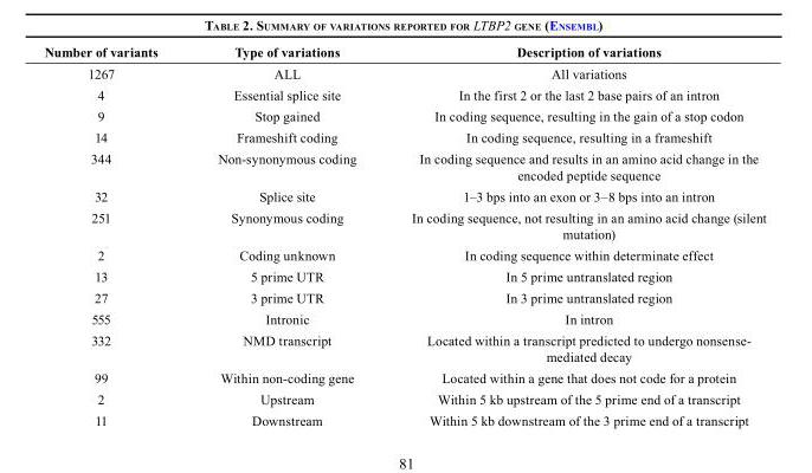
<table><thead><tr><td>Number of variants</td><td>Type of variations</td><td>Description of variations</td></tr></thead><tbody><tr><td>1267</td><td>ALL</td><td>All variations</td></tr><tr><td>4</td><td>Essential splice site</td><td>In the first 2 or the last 2 base pairs of an intron</td></tr><tr><td>9</td><td>Stop gained</td><td>In coding sequence, resulting in the gain of a stop codon</td></tr><tr><td>14</td><td>Frameshift coding</td><td>In coding sequence, resulting in a frameshift</td></tr><tr><td>344</td><td>Non-synonymous coding</td><td>In coding sequence and results in an amino acid change in the encoded peptide sequence</td></tr><tr><td>32</td><td>Splice site</td><td>1–3 bps into an exon or 3–8 bps into an intron</td></tr><tr><td>251</td><td>Synonymous coding</td><td>In coding sequence, not resulting in an amino acid change (silent mutation)</td></tr><tr><td>2</td><td>Coding unknown</td><td>In coding sequence within determinate effect</td></tr><tr><td>13</td><td>5 prime UTR</td><td>In 5 prime untranslated region</td></tr><tr><td>27</td><td>3 prime UTR</td><td>In 3 prime untranslated region</td></tr><tr><td>555</td><td>Intronic</td><td>In intron</td></tr><tr><td>332</td><td>NMD transcript</td><td>Located within a transcript predicted to undergo nonsense- mediated decay</td></tr><tr><td>99</td><td>Within non-coding gene</td><td>Located within a gene that does not code for a protein</td></tr><tr><td>2</td><td>Upstream</td><td>Within 5 kb upstream of the 5 prime end of a transcript</td></tr><tr><td>11</td><td>Downstream</td><td>Within 5 kb downstream of the 3 prime end of a transcript</td></tr></tbody></table>